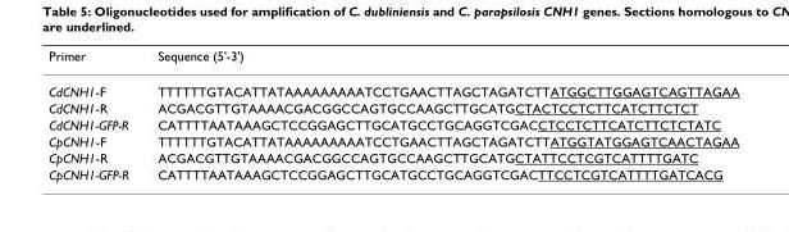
<table><thead><tr><td>Primer</td><td>Sequence (5&#x27;-3&#x27;)</td></tr></thead><tbody><tr><td>CdCNH1-F</td><td>TTTTTTGTACATTATAAAAAAAAATCCTGAACTTAGCTAGATCTTATGGCTTGGAGTCAGTTAGAA</td></tr><tr><td>CdCNH1-R</td><td>ACGACGTTGTAAAACGACGGCCAGTGCCAAGCTTGCATGCTACTCCTCTTCATCTTCTCT</td></tr><tr><td>CdCNH1-GFP-R</td><td>CATTTTAATAAAGCTCCGGAGCTTGCATGCCTGCAGGTCGACCTCCTCTTCATCTTCTCTATC</td></tr><tr><td>CpCNH1-F</td><td>TTTTTTGTACATTATAAAAAAAAATCCTGAACTTAGCTAGATCTTATGGTATGGAGTCAACTAGAA</td></tr><tr><td>CpCNH1-R</td><td>ACGACGTTGTAAAACGACGGCCAGTGCCAAGCTTGCATGCTATTCCTCGTCATTTTGATC</td></tr><tr><td>CpCNH1-GFP-R</td><td>CATTTTAATAAAGCTCCGGAGCTTGCATGCCTGCAGGTCGACTTCCTCGTCATTTTGATCACG</td></tr></tbody></table>